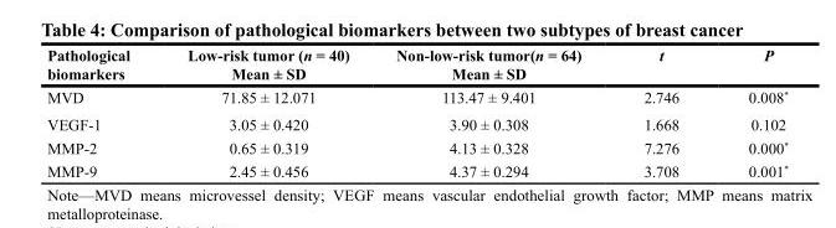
<table><thead><tr><td>Pathological biomarkers</td><td>Low-risk tumor (n = 40) Mean ± SD</td><td>Non-low-risk tumor(n = 64) Mean ± SD</td><td>t</td><td>P</td></tr></thead><tbody><tr><td>MVD</td><td>71.85 ± 12.071</td><td>113.47 ± 9.401</td><td>2.746</td><td>0.008*</td></tr><tr><td>VEGF-1</td><td>3.05 ± 0.420</td><td>3.90 ± 0.308</td><td>1.668</td><td>0.102</td></tr><tr><td>MMP-2</td><td>0.65 ± 0.319</td><td>4.13 ± 0.328</td><td>7.276</td><td>0.000*</td></tr><tr><td>MMP-9</td><td>2.45 ± 0.456</td><td>4.37 ± 0.294</td><td>3.708</td><td>0.001*</td></tr></tbody></table>